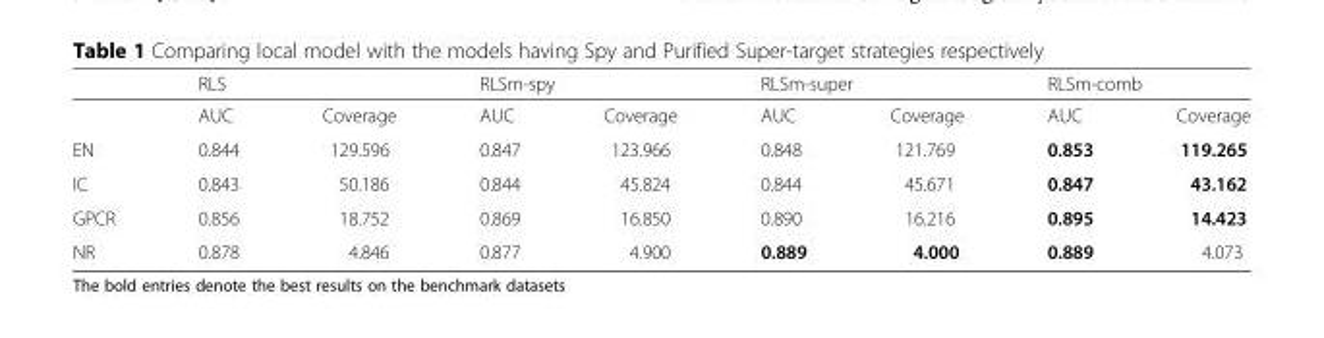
<table><thead><tr><td rowspan="2"></td><td colspan="2">RLS</td><td colspan="2">RLSm-spy</td><td colspan="2">RLSm-super</td><td colspan="2">RLSm-comb</td></tr><tr><td>AUC</td><td>Coverage</td><td>AUC</td><td>Coverage</td><td>AUC</td><td>Coverage</td><td>AUC</td><td>Coverage</td></tr></thead><tbody><tr><td>EN</td><td>0.844</td><td>129.596</td><td>0.847</td><td>123.966</td><td>0.848</td><td>121.769</td><td>0.853</td><td>119.265</td></tr><tr><td>IC</td><td>0.843</td><td>50.186</td><td>0.844</td><td>45.824</td><td>0.844</td><td>45.671</td><td>0.847</td><td>43.162</td></tr><tr><td>GPCR</td><td>0.856</td><td>18.752</td><td>0.869</td><td>16.850</td><td>0.890</td><td>16.216</td><td>0.895</td><td>14.423</td></tr><tr><td>NR</td><td>0.878</td><td>4.846</td><td>0.877</td><td>4.900</td><td>0.889</td><td>4.000</td><td>0.889</td><td>4.073</td></tr></tbody></table>